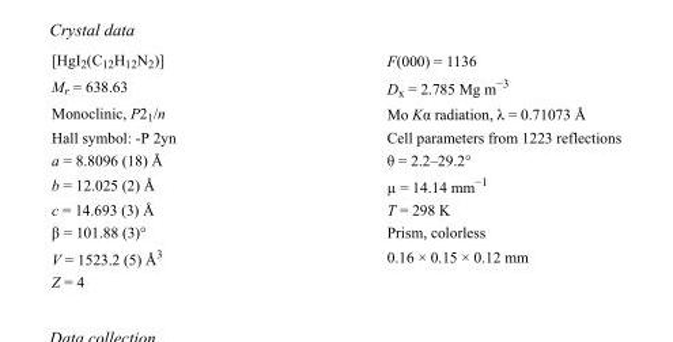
<table><tbody><tr><td>[HgI<sub>2</sub>(C<sub>12</sub>H<sub>12</sub>N<sub>2</sub>)]</td><td>F(000) = 1136</td></tr><tr><td>M<sub>r</sub> = 638.63</td><td>D<sub>x</sub> = 2.785 Mg m<sup>−3</sup></td></tr><tr><td>Monoclinic, P2<sub>1</sub>/n</td><td>Mo Kα radiation, λ = 0.71073 Å</td></tr><tr><td>Hall symbol: -P 2yn</td><td>Cell parameters from 1223 reflections</td></tr><tr><td>a = 8.8096 (18) Å</td><td>θ = 2.2–29.2°</td></tr><tr><td>b = 12.025 (2) Å</td><td>µ = 14.14 mm<sup>−1</sup></td></tr><tr><td>c = 14.693 (3) Å</td><td>T = 298 K</td></tr><tr><td>β = 101.88 (3)°</td><td>Prism, colorless</td></tr><tr><td>V = 1523.2 (5) Å<sup>3</sup></td><td>0.16 × 0.15 × 0.12 mm</td></tr><tr><td>Z = 4</td><td></td></tr></tbody></table>